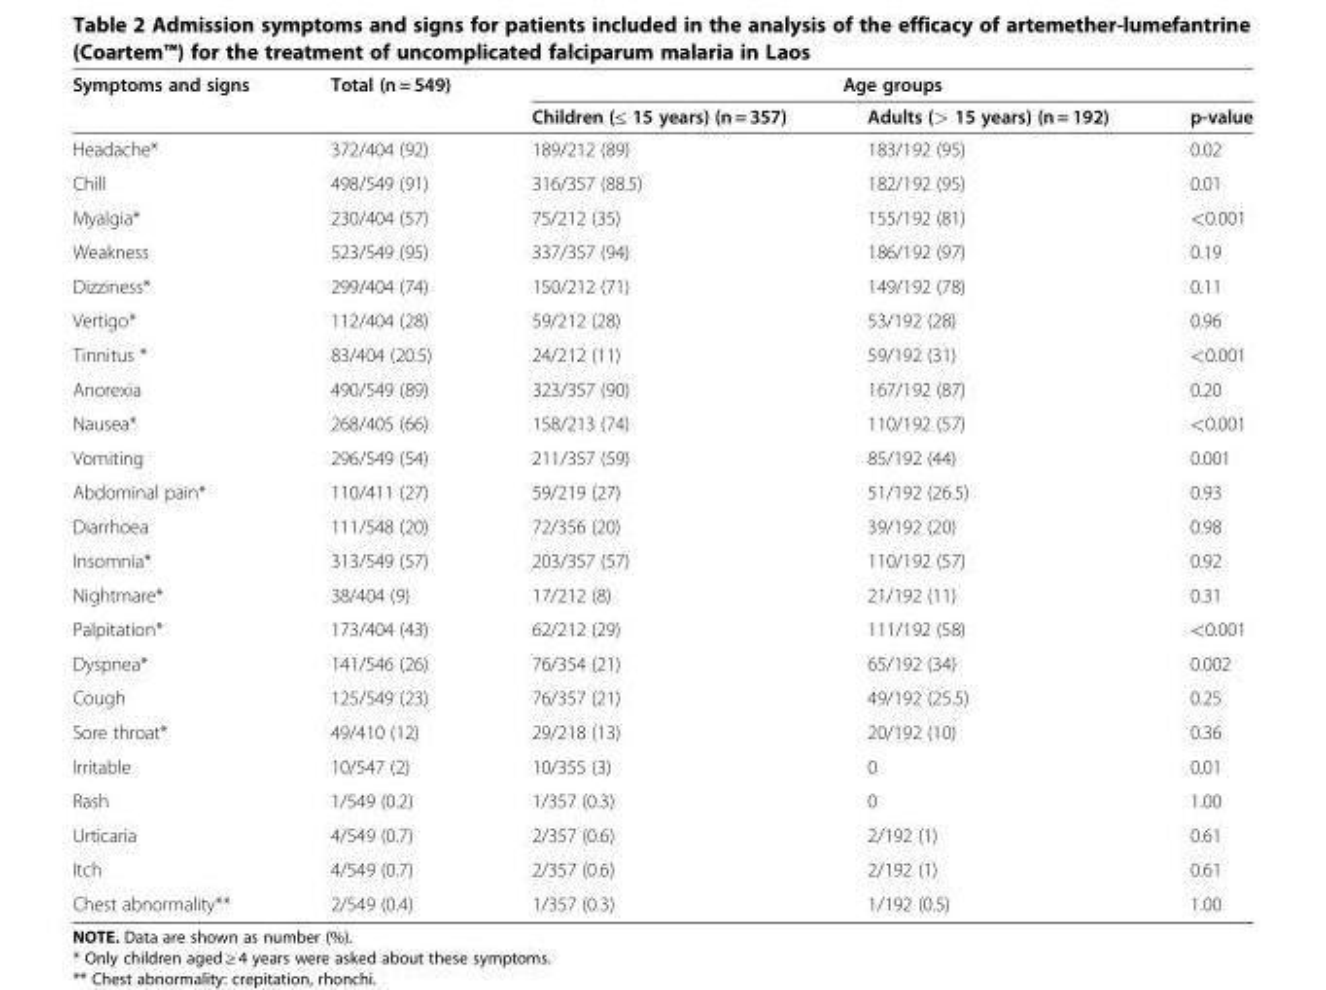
<table><thead><tr><td rowspan="2">Symptoms and signs</td><td rowspan="2">Total (n = 549)</td><td colspan="3">Age groups</td></tr><tr><td>Children (≤ 15 years) (n = 357)</td><td>Adults (&gt; 15 years) (n = 192)</td><td>p-value</td></tr></thead><tbody><tr><td>Headache*</td><td>372/404 (92)</td><td>189/212 (89)</td><td>183/192 (95)</td><td>0.02</td></tr><tr><td>Chill</td><td>498/549 (91)</td><td>316/357 (88.5)</td><td>182/192 (95)</td><td>0.01</td></tr><tr><td>Myalgia*</td><td>230/404 (57)</td><td>75/212 (35)</td><td>155/192 (81)</td><td>&lt;0.001</td></tr><tr><td>Weakness</td><td>523/549 (95)</td><td>337/357 (94)</td><td>186/192 (97)</td><td>0.19</td></tr><tr><td>Dizziness*</td><td>299/404 (74)</td><td>150/212 (71)</td><td>149/192 (78)</td><td>0.11</td></tr><tr><td>Vertigo*</td><td>112/404 (28)</td><td>59/212 (28)</td><td>53/192 (28)</td><td>0.96</td></tr><tr><td>Tinnitus *</td><td>83/404 (20.5)</td><td>24/212 (11)</td><td>59/192 (31)</td><td>&lt;0.001</td></tr><tr><td>Anorexia</td><td>490/549 (89)</td><td>323/357 (90)</td><td>167/192 (87)</td><td>0.20</td></tr><tr><td>Nausea*</td><td>268/405 (66)</td><td>158/213 (74)</td><td>110/192 (57)</td><td>&lt;0.001</td></tr><tr><td>Vomiting</td><td>296/549 (54)</td><td>211/357 (59)</td><td>85/192 (44)</td><td>0.001</td></tr><tr><td>Abdominal pain*</td><td>110/411 (27)</td><td>59/219 (27)</td><td>51/192 (26.5)</td><td>0.93</td></tr><tr><td>Diarrhoea</td><td>111/548 (20)</td><td>72/356 (20)</td><td>39/192 (20)</td><td>0.98</td></tr><tr><td>Insomnia*</td><td>313/549 (57)</td><td>203/357 (57)</td><td>110/192 (57)</td><td>0.92</td></tr><tr><td>Nightmare*</td><td>38/404 (9)</td><td>17/212 (8)</td><td>21/192 (11)</td><td>0.31</td></tr><tr><td>Palpitation*</td><td>173/404 (43)</td><td>62/212 (29)</td><td>111/192 (58)</td><td>&lt;0.001</td></tr><tr><td>Dyspnea*</td><td>141/546 (26)</td><td>76/354 (21)</td><td>65/192 (34)</td><td>0.002</td></tr><tr><td>Cough</td><td>125/549 (23)</td><td>76/357 (21)</td><td>49/192 (25.5)</td><td>0.25</td></tr><tr><td>Sore throat*</td><td>49/410 (12)</td><td>29/218 (13)</td><td>20/192 (10)</td><td>0.36</td></tr><tr><td>Irritable</td><td>10/547 (2)</td><td>10/355 (3)</td><td>0</td><td>0.01</td></tr><tr><td>Rash</td><td>1/549 (0.2)</td><td>1/357 (0.3)</td><td>0</td><td>1.00</td></tr><tr><td>Urticaria</td><td>4/549 (0.7)</td><td>2/357 (0.6)</td><td>2/192 (1)</td><td>0.61</td></tr><tr><td>Itch</td><td>4/549 (0.7)</td><td>2/357 (0.6)</td><td>2/192 (1)</td><td>0.61</td></tr><tr><td>Chest abnormality**</td><td>2/549 (0.4)</td><td>1/357 (0.3)</td><td>1/192 (0.5)</td><td>1.00</td></tr></tbody></table>